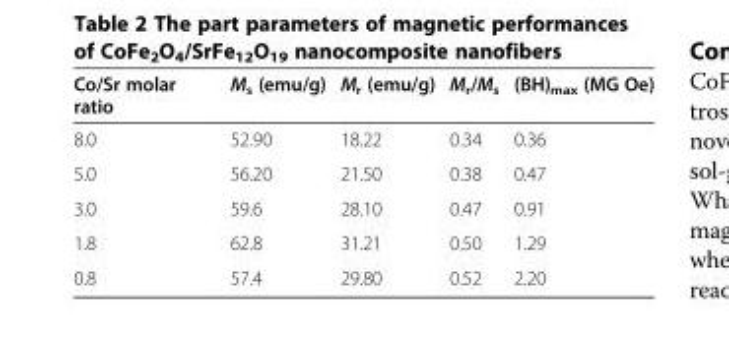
<table><thead><tr><td>Co/Sr molar ratio</td><td>M<sub>s</sub> (emu/g)</td><td>M<sub>r</sub> (emu/g)</td><td>M<sub>r</sub>/M<sub>s</sub></td><td>(BH)<sub>max</sub> (MG Oe)</td></tr></thead><tbody><tr><td>8.0</td><td>52.90</td><td>18.22</td><td>0.34</td><td>0.36</td></tr><tr><td>5.0</td><td>56.20</td><td>21.50</td><td>0.38</td><td>0.47</td></tr><tr><td>3.0</td><td>59.6</td><td>28.10</td><td>0.47</td><td>0.91</td></tr><tr><td>1.8</td><td>62.8</td><td>31.21</td><td>0.50</td><td>1.29</td></tr><tr><td>0.8</td><td>57.4</td><td>29.80</td><td>0.52</td><td>2.20</td></tr></tbody></table>